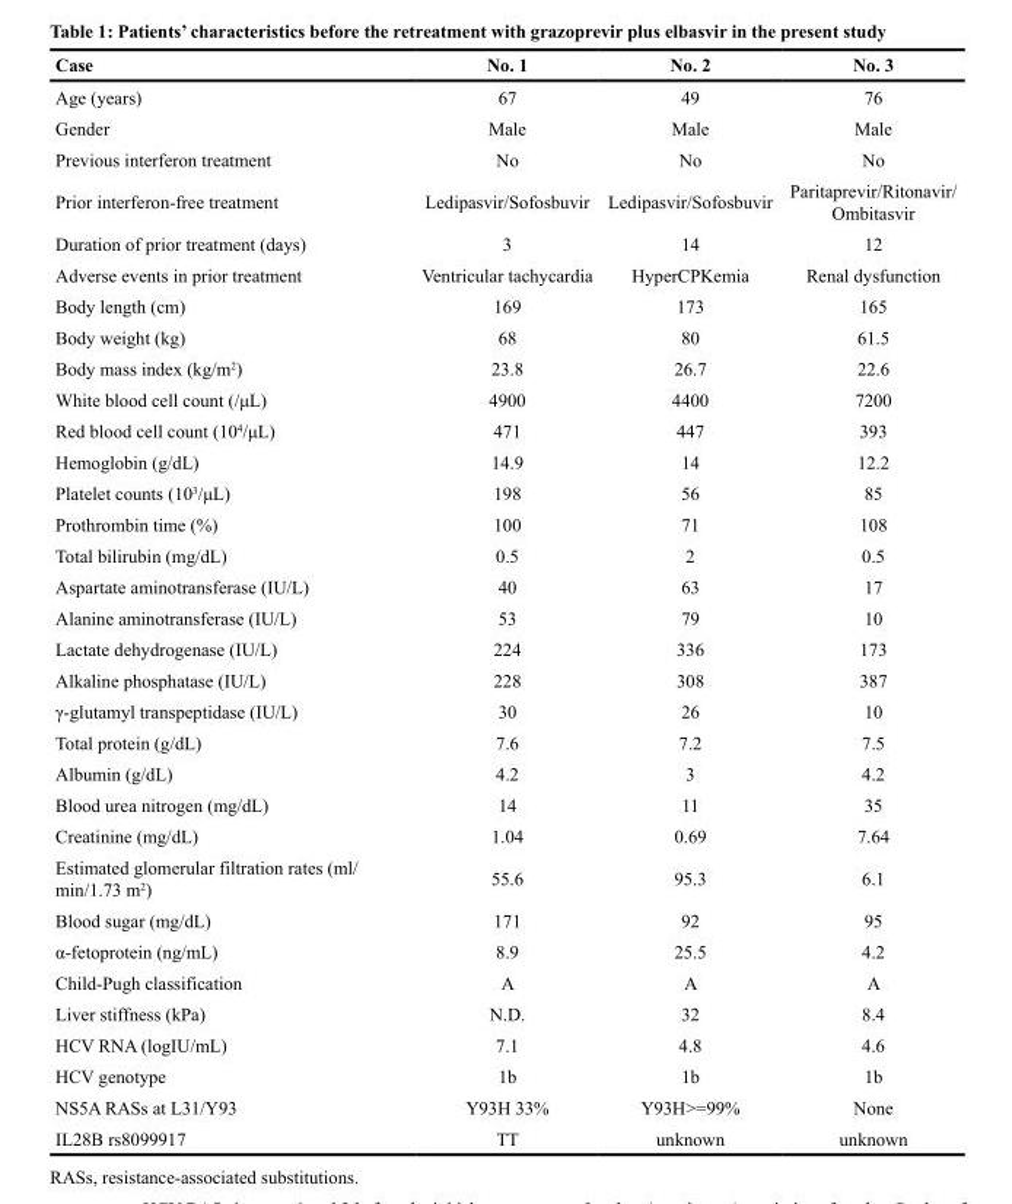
<table><thead><tr><td>Case</td><td>No. 1</td><td>No. 2</td><td>No. 3</td></tr></thead><tbody><tr><td>Age (years)</td><td>67</td><td>49</td><td>76</td></tr><tr><td>Gender</td><td>Male</td><td>Male</td><td>Male</td></tr><tr><td>Previous interferon treatment</td><td>No</td><td>No</td><td>No</td></tr><tr><td>Prior interferon-free treatment</td><td>Ledipasvir/Sofosbuvir</td><td>Ledipasvir/Sofosbuvir</td><td>Paritaprevir/Ritonavir/ Ombitasvir</td></tr><tr><td>Duration of prior treatment (days)</td><td>3</td><td>14</td><td>12</td></tr><tr><td>Adverse events in prior treatment</td><td>Ventricular tachycardia</td><td>HyperCPKemia</td><td>Renal dysfunction</td></tr><tr><td>Body length (cm)</td><td>169</td><td>173</td><td>165</td></tr><tr><td>Body weight (kg)</td><td>68</td><td>80</td><td>61.5</td></tr><tr><td>Body mass index (kg/m<sup>2</sup>)</td><td>23.8</td><td>26.7</td><td>22.6</td></tr><tr><td>White blood cell count (/μL)</td><td>4900</td><td>4400</td><td>7200</td></tr><tr><td>Red blood cell count (10<sup>4</sup>/μL)</td><td>471</td><td>447</td><td>393</td></tr><tr><td>Hemoglobin (g/dL)</td><td>14.9</td><td>14</td><td>12.2</td></tr><tr><td>Platelet counts (10<sup>3</sup>/μL)</td><td>198</td><td>56</td><td>85</td></tr><tr><td>Prothrombin time (%)</td><td>100</td><td>71</td><td>108</td></tr><tr><td>Total bilirubin (mg/dL)</td><td>0.5</td><td>2</td><td>0.5</td></tr><tr><td>Aspartate aminotransferase (IU/L)</td><td>40</td><td>63</td><td>17</td></tr><tr><td>Alanine aminotransferase (IU/L)</td><td>53</td><td>79</td><td>10</td></tr><tr><td>Lactate dehydrogenase (IU/L)</td><td>224</td><td>336</td><td>173</td></tr><tr><td>Alkaline phosphatase (IU/L)</td><td>228</td><td>308</td><td>387</td></tr><tr><td>γ-glutamyl transpeptidase (IU/L)</td><td>30</td><td>26</td><td>10</td></tr><tr><td>Total protein (g/dL)</td><td>7.6</td><td>7.2</td><td>7.5</td></tr><tr><td>Albumin (g/dL)</td><td>4.2</td><td>3</td><td>4.2</td></tr><tr><td>Blood urea nitrogen (mg/dL)</td><td>14</td><td>11</td><td>35</td></tr><tr><td>Creatinine (mg/dL)</td><td>1.04</td><td>0.69</td><td>7.64</td></tr><tr><td>Estimated glomerular filtration rates (ml/ min/1.73 m<sup>2</sup>)</td><td>55.6</td><td>95.3</td><td>6.1</td></tr><tr><td>Blood sugar (mg/dL)</td><td>171</td><td>92</td><td>95</td></tr><tr><td>α-fetoprotein (ng/mL)</td><td>8.9</td><td>25.5</td><td>4.2</td></tr><tr><td>Child-Pugh classification</td><td>A</td><td>A</td><td>A</td></tr><tr><td>Liver stiffness (kPa)</td><td>N.D.</td><td>32</td><td>8.4</td></tr><tr><td>HCV RNA (logIU/mL)</td><td>7.1</td><td>4.8</td><td>4.6</td></tr><tr><td>HCV genotype</td><td>1b</td><td>1b</td><td>1b</td></tr><tr><td>NS5A RASs at L31/Y93</td><td>Y93H 33%</td><td>Y93H&gt;=99%</td><td>None</td></tr><tr><td>IL28B rs8099917</td><td>TT</td><td>unknown</td><td>unknown</td></tr></tbody></table>